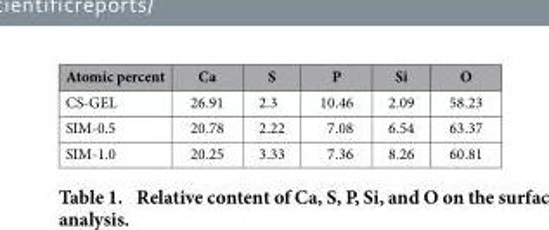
<table><thead><tr><td>Atomic percent</td><td>Ca</td><td>S</td><td>P</td><td>Si</td><td>O</td></tr></thead><tbody><tr><td>CS-GEL</td><td>26.91</td><td>2.3</td><td>10.46</td><td>2.09</td><td>58.23</td></tr><tr><td>SIM-0.5</td><td>20.78</td><td>2.22</td><td>7.08</td><td>6.54</td><td>63.37</td></tr><tr><td>SIM-1.0</td><td>20.25</td><td>3.33</td><td>7.36</td><td>8.26</td><td>60.81</td></tr></tbody></table>